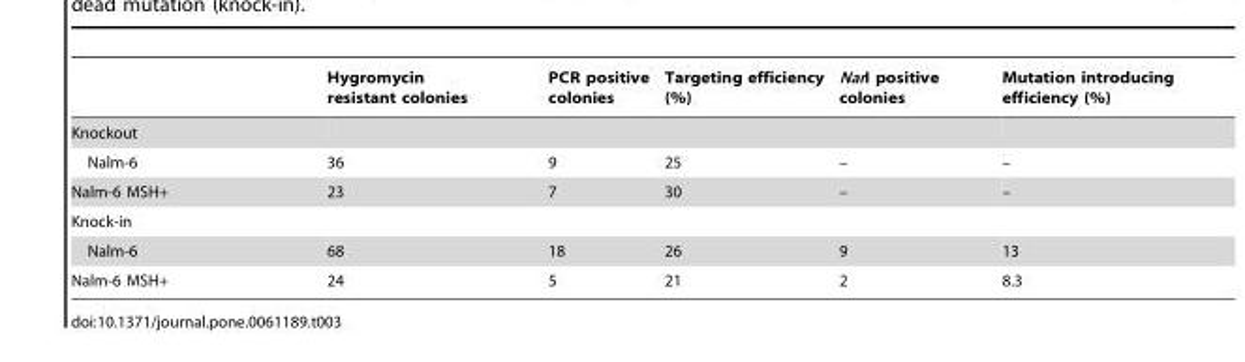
<table><thead><tr><td></td><td>Hygromycin resistant colonies</td><td>PCR positive colonies</td><td>Targeting efficiency (%)</td><td>NarI positive colonies</td><td>Mutation introducing efficiency (%)</td></tr></thead><tbody><tr><td colspan="6">Knockout</td></tr><tr><td>Nalm-6</td><td>36</td><td>9</td><td>25</td><td>–</td><td>–</td></tr><tr><td>Nalm-6 MSH+</td><td>23</td><td>7</td><td>30</td><td>–</td><td>–</td></tr><tr><td colspan="6">Knock-in</td></tr><tr><td>Nalm-6</td><td>68</td><td>18</td><td>26</td><td>9</td><td>13</td></tr><tr><td>Nalm-6 MSH+</td><td>24</td><td>5</td><td>21</td><td>2</td><td>8.3</td></tr></tbody></table>